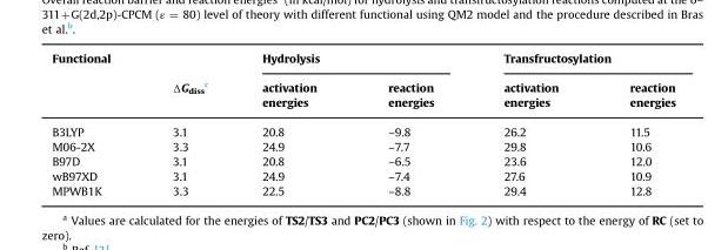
<table><thead><tr><td rowspan="2">Functional</td><td rowspan="2">ΔGdiss c</td><td colspan="2">Hydrolysis</td><td colspan="2">Transfructosylation</td></tr><tr><td>activation energies</td><td>reaction energies</td><td>activation energies</td><td>reaction energies</td></tr></thead><tbody><tr><td>B3LYP</td><td>3.1</td><td>20.8</td><td>–9.8</td><td>26.2</td><td>11.5</td></tr><tr><td>M06-2X</td><td>3.3</td><td>24.9</td><td>–7.7</td><td>29.8</td><td>10.6</td></tr><tr><td>B97D</td><td>3.1</td><td>20.8</td><td>–6.5</td><td>23.6</td><td>12.0</td></tr><tr><td>wB97XD</td><td>3.1</td><td>24.9</td><td>–7.4</td><td>27.6</td><td>10.9</td></tr><tr><td>MPWB1K</td><td>3.3</td><td>22.5</td><td>–8.8</td><td>29.4</td><td>12.8</td></tr></tbody></table>